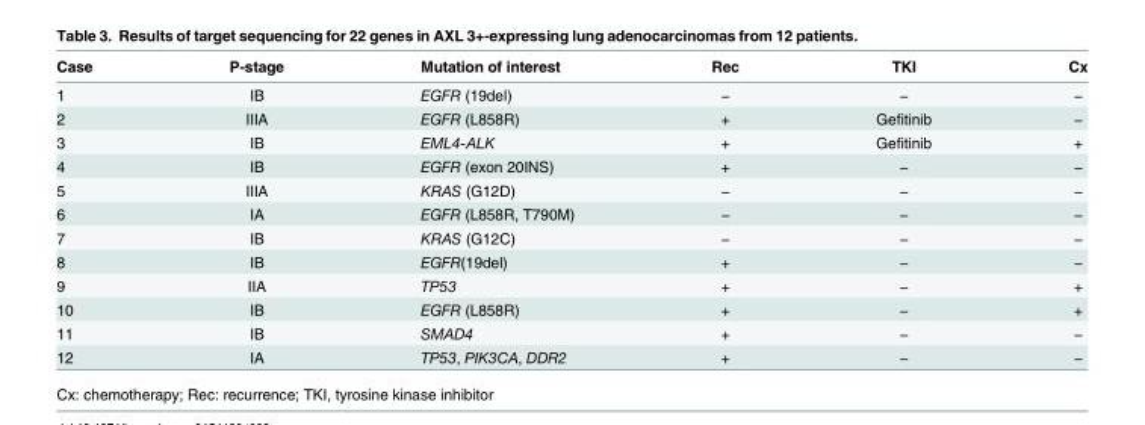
<table><thead><tr><td>Case</td><td>P-stage</td><td>Mutation of interest</td><td>Rec</td><td>TKI</td><td>Cx</td></tr></thead><tbody><tr><td>1</td><td>IB</td><td>EGFR (19del)</td><td>−</td><td>−</td><td>−</td></tr><tr><td>2</td><td>IIIA</td><td>EGFR (L858R)</td><td>+</td><td>Gefitinib</td><td>−</td></tr><tr><td>3</td><td>IB</td><td>EML4-ALK</td><td>+</td><td>Gefitinib</td><td>+</td></tr><tr><td>4</td><td>IB</td><td>EGFR (exon 20INS)</td><td>+</td><td>−</td><td>−</td></tr><tr><td>5</td><td>IIIA</td><td>KRAS (G12D)</td><td>−</td><td>−</td><td>−</td></tr><tr><td>6</td><td>IA</td><td>EGFR (L858R, T790M)</td><td>−</td><td>−</td><td>−</td></tr><tr><td>7</td><td>IB</td><td>KRAS (G12C)</td><td>−</td><td>−</td><td>−</td></tr><tr><td>8</td><td>IB</td><td>EGFR(19del)</td><td>+</td><td>−</td><td>−</td></tr><tr><td>9</td><td>IIA</td><td>TP53</td><td>+</td><td>−</td><td>+</td></tr><tr><td>10</td><td>IB</td><td>EGFR (L858R)</td><td>+</td><td>−</td><td>+</td></tr><tr><td>11</td><td>IB</td><td>SMAD4</td><td>+</td><td>−</td><td>−</td></tr><tr><td>12</td><td>IA</td><td>TP53, PIK3CA, DDR2</td><td>+</td><td>−</td><td>−</td></tr></tbody></table>